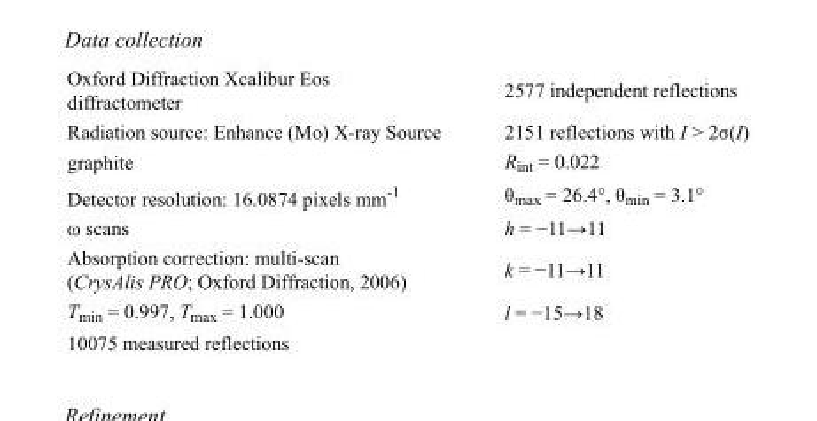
<table><tbody><tr><td>Oxford Diffraction Xcalibur Eos diffractometer</td><td>2577 independent reflections</td></tr><tr><td>Radiation source: Enhance (Mo) X-ray Source</td><td>2151 reflections with I &gt; 2σ(I)</td></tr><tr><td>graphite</td><td>R<sub>int</sub> = 0.022</td></tr><tr><td>Detector resolution: 16.0874 pixels mm<sup>-1</sup></td><td>θ<sub>max</sub> = 26.4°, θ<sub>min</sub> = 3.1°</td></tr><tr><td>ω scans</td><td>h = −11→11</td></tr><tr><td>Absorption correction: multi-scan (CrysAlis PRO; Oxford Diffraction, 2006)</td><td>k = −11→11</td></tr><tr><td>T<sub>min</sub> = 0.997, T<sub>max</sub> = 1.000</td><td>l = −15→18</td></tr><tr><td>10075 measured reflections</td><td></td></tr></tbody></table>